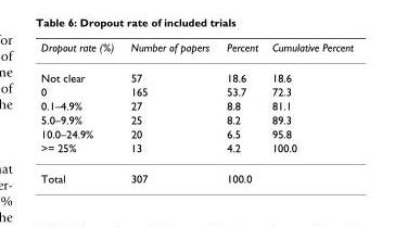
<table><thead><tr><td>Dropout rate (%)</td><td>Number of papers</td><td>Percent</td><td>Cumulative Percent</td></tr></thead><tbody><tr><td>Not clear</td><td>57</td><td>18.6</td><td>18.6</td></tr><tr><td>0</td><td>165</td><td>53.7</td><td>72.3</td></tr><tr><td>0.1–4.9%</td><td>27</td><td>8.8</td><td>81.1</td></tr><tr><td>5.0–9.9%</td><td>25</td><td>8.2</td><td>89.3</td></tr><tr><td>10.0–24.9%</td><td>20</td><td>6.5</td><td>95.8</td></tr><tr><td>&gt;= 25%</td><td>13</td><td>4.2</td><td>100.0</td></tr><tr><td>Total</td><td>307</td><td>100.0</td><td></td></tr></tbody></table>